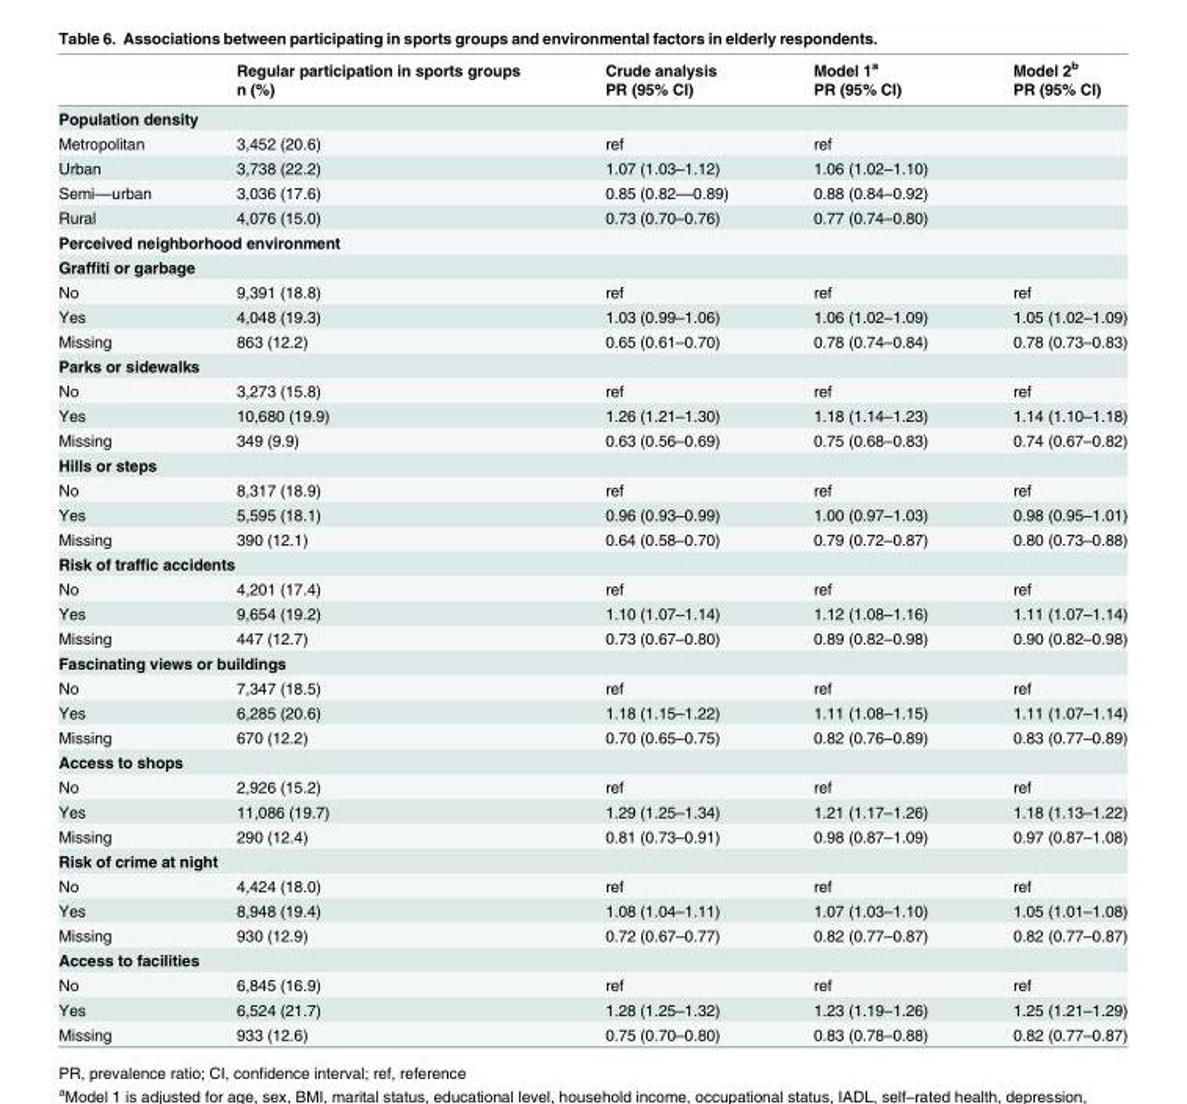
<table><thead><tr><td rowspan="2"></td><td rowspan="2">Regular participation in sports groups n (%)</td><td rowspan="2">Crude analysis PR (95% CI)</td><td rowspan="2">Model 1<sup>a</sup> PR (95% CI)</td><td rowspan="2">Model 2<sup>b</sup> PR (95% CI)</td></tr><tr></tr></thead><tbody><tr><td colspan="5">Population density</td></tr><tr><td>Metropolitan</td><td>3,452 (20.6)</td><td>ref</td><td>ref</td><td></td></tr><tr><td>Urban</td><td>3,738 (22.2)</td><td>1.07 (1.03–1.12)</td><td>1.06 (1.02–1.10)</td><td></td></tr><tr><td>Semi––urban</td><td>3,036 (17.6)</td><td>0.85 (0.82––0.89)</td><td>0.88 (0.84–0.92)</td><td></td></tr><tr><td>Rural</td><td>4,076 (15.0)</td><td>0.73 (0.70–0.76)</td><td>0.77 (0.74–0.80)</td><td></td></tr><tr><td colspan="5">Perceived neighborhood environment</td></tr><tr><td colspan="5">Graffiti or garbage</td></tr><tr><td>No</td><td>9,391 (18.8)</td><td>ref</td><td>ref</td><td>ref</td></tr><tr><td>Yes</td><td>4,048 (19.3)</td><td>1.03 (0.99–1.06)</td><td>1.06 (1.02–1.09)</td><td>1.05 (1.02–1.09)</td></tr><tr><td>Missing</td><td>863 (12.2)</td><td>0.65 (0.61–0.70)</td><td>0.78 (0.74–0.84)</td><td>0.78 (0.73–0.83)</td></tr><tr><td colspan="5">Parks or sidewalks</td></tr><tr><td>No</td><td>3,273 (15.8)</td><td>ref</td><td>ref</td><td>ref</td></tr><tr><td>Yes</td><td>10,680 (19.9)</td><td>1.26 (1.21–1.30)</td><td>1.18 (1.14–1.23)</td><td>1.14 (1.10–1.18)</td></tr><tr><td>Missing</td><td>349 (9.9)</td><td>0.63 (0.56–0.69)</td><td>0.75 (0.68–0.83)</td><td>0.74 (0.67–0.82)</td></tr><tr><td colspan="5">Hills or steps</td></tr><tr><td>No</td><td>8,317 (18.9)</td><td>ref</td><td>ref</td><td>ref</td></tr><tr><td>Yes</td><td>5,595 (18.1)</td><td>0.96 (0.93–0.99)</td><td>1.00 (0.97–1.03)</td><td>0.98 (0.95–1.01)</td></tr><tr><td>Missing</td><td>390 (12.1)</td><td>0.64 (0.58–0.70)</td><td>0.79 (0.72–0.87)</td><td>0.80 (0.73–0.88)</td></tr><tr><td colspan="5">Risk of traffic accidents</td></tr><tr><td>No</td><td>4,201 (17.4)</td><td>ref</td><td>ref</td><td>ref</td></tr><tr><td>Yes</td><td>9,654 (19.2)</td><td>1.10 (1.07–1.14)</td><td>1.12 (1.08–1.16)</td><td>1.11 (1.07–1.14)</td></tr><tr><td>Missing</td><td>447 (12.7)</td><td>0.73 (0.67–0.80)</td><td>0.89 (0.82–0.98)</td><td>0.90 (0.82–0.98)</td></tr><tr><td colspan="5">Fascinating views or buildings</td></tr><tr><td>No</td><td>7,347 (18.5)</td><td>ref</td><td>ref</td><td>ref</td></tr><tr><td>Yes</td><td>6,285 (20.6)</td><td>1.18 (1.15–1.22)</td><td>1.11 (1.08–1.15)</td><td>1.11 (1.07–1.14)</td></tr><tr><td>Missing</td><td>670 (12.2)</td><td>0.70 (0.65–0.75)</td><td>0.82 (0.76–0.89)</td><td>0.83 (0.77–0.89)</td></tr><tr><td colspan="5">Access to shops</td></tr><tr><td>No</td><td>2,926 (15.2)</td><td>ref</td><td>ref</td><td>ref</td></tr><tr><td>Yes</td><td>11,086 (19.7)</td><td>1.29 (1.25–1.34)</td><td>1.21 (1.17–1.26)</td><td>1.18 (1.13–1.22)</td></tr><tr><td>Missing</td><td>290 (12.4)</td><td>0.81 (0.73–0.91)</td><td>0.98 (0.87–1.09)</td><td>0.97 (0.87–1.08)</td></tr><tr><td colspan="5">Risk of crime at night</td></tr><tr><td>No</td><td>4,424 (18.0)</td><td>ref</td><td>ref</td><td>ref</td></tr><tr><td>Yes</td><td>8,948 (19.4)</td><td>1.08 (1.04–1.11)</td><td>1.07 (1.03–1.10)</td><td>1.05 (1.01–1.08)</td></tr><tr><td>Missing</td><td>930 (12.9)</td><td>0.72 (0.67–0.77)</td><td>0.82 (0.77–0.87)</td><td>0.82 (0.77–0.87)</td></tr><tr><td colspan="5">Access to facilities</td></tr><tr><td>No</td><td>6,845 (16.9)</td><td>ref</td><td>ref</td><td>ref</td></tr><tr><td>Yes</td><td>6,524 (21.7)</td><td>1.28 (1.25–1.32)</td><td>1.23 (1.19–1.26)</td><td>1.25 (1.21–1.29)</td></tr><tr><td>Missing</td><td>933 (12.6)</td><td>0.75 (0.70–0.80)</td><td>0.83 (0.78–0.88)</td><td>0.82 (0.77–0.87)</td></tr></tbody></table>